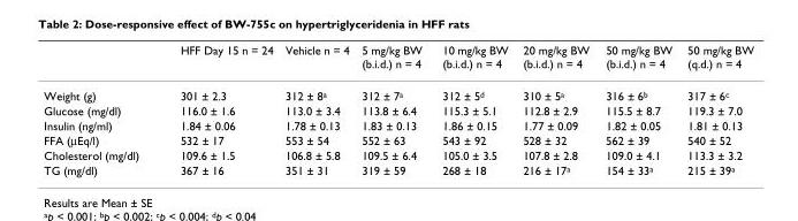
<table><thead><tr><td></td><td>HFF Day 15 n = 24</td><td>Vehicle n = 4</td><td>5 mg/kg BW (b.i.d.) n = 4</td><td>10 mg/kg BW (b.i.d.) n = 4</td><td>20 mg/kg BW (b.i.d.) n = 4</td><td>50 mg/kg BW (b.i.d.) n = 4</td><td>50 mg/kg BW (q.d.) n = 4</td></tr></thead><tbody><tr><td>Weight (g)</td><td>301 ± 2.3</td><td>312 ± 8<sup>a</sup></td><td>312 ± 7<sup>a</sup></td><td>312 ± 5<sup>d</sup></td><td>310 ± 5<sup>a</sup></td><td>316 ± 6<sup>b</sup></td><td>317 ± 6<sup>c</sup></td></tr><tr><td>Glucose (mg/dl)</td><td>116.0 ± 1.6</td><td>113.0 ± 3.4</td><td>113.8 ± 6.4</td><td>115.3 ± 5.1</td><td>112.8 ± 2.9</td><td>115.5 ± 8.7</td><td>119.3 ± 7.0</td></tr><tr><td>Insulin (ng/ml)</td><td>1.84 ± 0.06</td><td>1.78 ± 0.13</td><td>1.83 ± 0.13</td><td>1.86 ± 0.15</td><td>1.77 ± 0.09</td><td>1.82 ± 0.05</td><td>1.81 ± 0.13</td></tr><tr><td>FFA (µEq/l)</td><td>532 ± 17</td><td>553 ± 54</td><td>552 ± 63</td><td>543 ± 92</td><td>528 ± 32</td><td>562 ± 39</td><td>540 ± 52</td></tr><tr><td>Cholesterol (mg/dl)</td><td>109.6 ± 1.5</td><td>106.8 ± 5.8</td><td>109.5 ± 6.4</td><td>105.0 ± 3.5</td><td>107.8 ± 2.8</td><td>109.0 ± 4.1</td><td>113.3 ± 3.2</td></tr><tr><td>TG (mg/dl)</td><td>367 ± 16</td><td>351 ± 31</td><td>319 ± 59</td><td>268 ± 18</td><td>216 ± 17<sup>a</sup></td><td>154 ± 33<sup>a</sup></td><td>215 ± 39<sup>a</sup></td></tr></tbody></table>